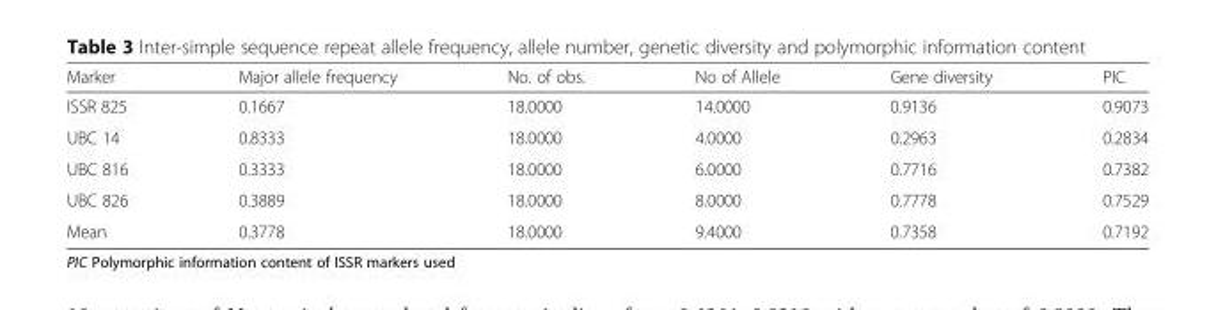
<table><thead><tr><td>Marker</td><td>Major allele frequency</td><td>No. of obs.</td><td>No of Allele</td><td>Gene diversity</td><td>PIC</td></tr></thead><tbody><tr><td>ISSR 825</td><td>0.1667</td><td>18.0000</td><td>14.0000</td><td>0.9136</td><td>0.9073</td></tr><tr><td>UBC 14</td><td>0.8333</td><td>18.0000</td><td>4.0000</td><td>0.2963</td><td>0.2834</td></tr><tr><td>UBC 816</td><td>0.3333</td><td>18.0000</td><td>6.0000</td><td>0.7716</td><td>0.7382</td></tr><tr><td>UBC 826</td><td>0.3889</td><td>18.0000</td><td>8.0000</td><td>0.7778</td><td>0.7529</td></tr><tr><td>Mean</td><td>0.3778</td><td>18.0000</td><td>9.4000</td><td>0.7358</td><td>0.7192</td></tr></tbody></table>